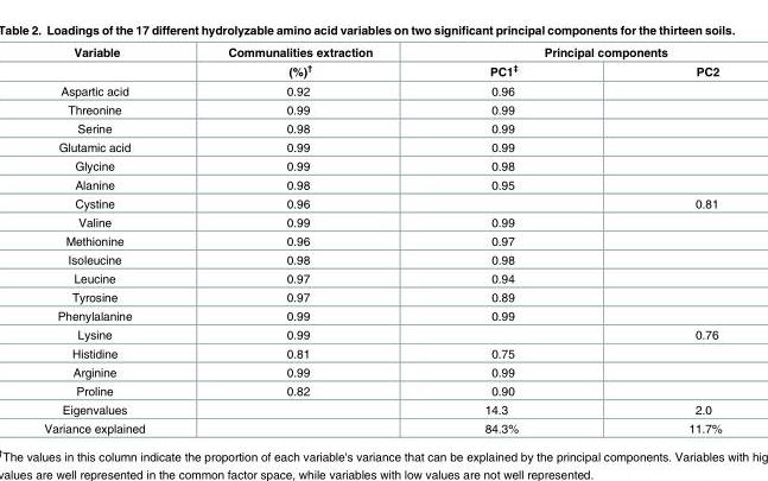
<table><thead><tr><td rowspan="2">Variable</td><td rowspan="2">Communalities extraction (%)<sup>†</sup></td><td colspan="2">Principal components</td></tr><tr><td>PC1<sup>‡</sup></td><td>PC2</td></tr></thead><tbody><tr><td>Aspartic acid</td><td>0.92</td><td>0.96</td><td></td></tr><tr><td>Threonine</td><td>0.99</td><td>0.99</td><td></td></tr><tr><td>Serine</td><td>0.98</td><td>0.99</td><td></td></tr><tr><td>Glutamic acid</td><td>0.99</td><td>0.99</td><td></td></tr><tr><td>Glycine</td><td>0.99</td><td>0.98</td><td></td></tr><tr><td>Alanine</td><td>0.98</td><td>0.95</td><td></td></tr><tr><td>Cystine</td><td>0.96</td><td></td><td>0.81</td></tr><tr><td>Valine</td><td>0.99</td><td>0.99</td><td></td></tr><tr><td>Methionine</td><td>0.96</td><td>0.97</td><td></td></tr><tr><td>Isoleucine</td><td>0.98</td><td>0.98</td><td></td></tr><tr><td>Leucine</td><td>0.97</td><td>0.94</td><td></td></tr><tr><td>Tyrosine</td><td>0.97</td><td>0.89</td><td></td></tr><tr><td>Phenylalanine</td><td>0.99</td><td>0.99</td><td></td></tr><tr><td>Lysine</td><td>0.99</td><td></td><td>0.76</td></tr><tr><td>Histidine</td><td>0.81</td><td>0.75</td><td></td></tr><tr><td>Arginine</td><td>0.99</td><td>0.99</td><td></td></tr><tr><td>Proline</td><td>0.82</td><td>0.90</td><td></td></tr><tr><td>Eigenvalues</td><td></td><td>14.3</td><td>2.0</td></tr><tr><td>Variance explained</td><td></td><td>84.3%</td><td>11.7%</td></tr></tbody></table>